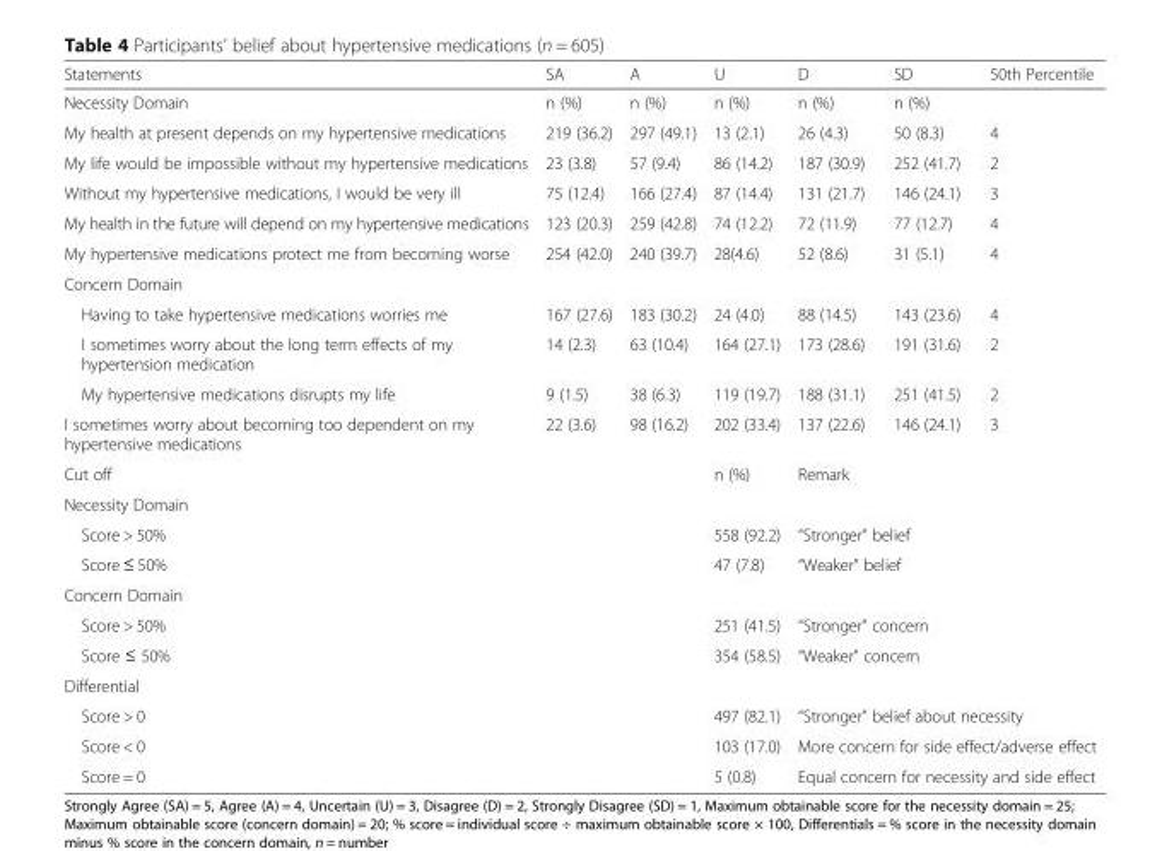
<table><thead><tr><td>Statements</td><td>SA</td><td>A</td><td>U</td><td>D</td><td>SD</td><td>50th Percentile</td></tr></thead><tbody><tr><td>Necessity Domain</td><td>n (%)</td><td>n (%)</td><td>n (%)</td><td>n (%)</td><td>n (%)</td><td></td></tr><tr><td>My health at present depends on my hypertensive medications</td><td>219 (36.2)</td><td>297 (49.1)</td><td>13 (2.1)</td><td>26 (4.3)</td><td>50 (8.3)</td><td>4</td></tr><tr><td>My life would be impossible without my hypertensive medications</td><td>23 (3.8)</td><td>57 (9.4)</td><td>86 (14.2)</td><td>187 (30.9)</td><td>252 (41.7)</td><td>2</td></tr><tr><td>Without my hypertensive medications, I would be very ill</td><td>75 (12.4)</td><td>166 (27.4)</td><td>87 (14.4)</td><td>131 (21.7)</td><td>146 (24.1)</td><td>3</td></tr><tr><td>My health in the future will depend on my hypertensive medications</td><td>123 (20.3)</td><td>259 (42.8)</td><td>74 (12.2)</td><td>72 (11.9)</td><td>77 (12.7)</td><td>4</td></tr><tr><td>My hypertensive medications protect me from becoming worse</td><td>254 (42.0)</td><td>240 (39.7)</td><td>28(4.6)</td><td>52 (8.6)</td><td>31 (5.1)</td><td>4</td></tr><tr><td colspan="7">Concern Domain</td></tr><tr><td>Having to take hypertensive medications worries me</td><td>167 (27.6)</td><td>183 (30.2)</td><td>24 (4.0)</td><td>88 (14.5)</td><td>143 (23.6)</td><td>4</td></tr><tr><td>I sometimes worry about the long term effects of my hypertension medication</td><td>14 (2.3)</td><td>63 (10.4)</td><td>164 (27.1)</td><td>173 (28.6)</td><td>191 (31.6)</td><td>2</td></tr><tr><td>My hypertensive medications disrupts my life</td><td>9 (1.5)</td><td>38 (6.3)</td><td>119 (19.7)</td><td>188 (31.1)</td><td>251 (41.5)</td><td>2</td></tr><tr><td>I sometimes worry about becoming too dependent on my hypertensive medications</td><td>22 (3.6)</td><td>98 (16.2)</td><td>202 (33.4)</td><td>137 (22.6)</td><td>146 (24.1)</td><td>3</td></tr><tr><td>Cut off</td><td></td><td></td><td>n (%)</td><td colspan="3">Remark</td></tr><tr><td colspan="7">Necessity Domain</td></tr><tr><td>Score &gt; 50%</td><td></td><td></td><td>558 (92.2)</td><td colspan="3">“Stronger” belief</td></tr><tr><td>Score ≤ 50%</td><td></td><td></td><td>47 (7.8)</td><td colspan="3">“Weaker” belief</td></tr><tr><td colspan="7">Concern Domain</td></tr><tr><td>Score &gt; 50%</td><td></td><td></td><td>251 (41.5)</td><td colspan="3">“Stronger” concern</td></tr><tr><td>Score ≤ 50%</td><td></td><td></td><td>354 (58.5)</td><td colspan="3">“Weaker” concern</td></tr><tr><td colspan="7">Differential</td></tr><tr><td>Score &gt; 0</td><td></td><td></td><td>497 (82.1)</td><td colspan="3">“Stronger” belief about necessity</td></tr><tr><td>Score &lt; 0</td><td></td><td></td><td>103 (17.0)</td><td colspan="3">More concern for side effect/adverse effect</td></tr><tr><td>Score = 0</td><td></td><td></td><td>5 (0.8)</td><td colspan="3">Equal concern for necessity and side effect</td></tr></tbody></table>